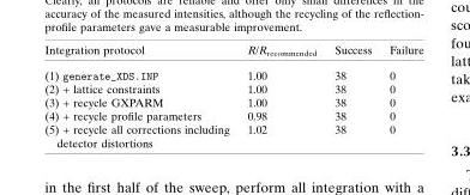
<table><thead><tr><td>Integration protocol</td><td>R/R<sub>recommended</sub></td><td>Success</td><td>Failure</td></tr></thead><tbody><tr><td>(1) generate_XDS.INP</td><td>1.00</td><td>38</td><td>0</td></tr><tr><td>(2) + lattice constraints</td><td>1.00</td><td>38</td><td>0</td></tr><tr><td>(3) + recycle GXPARM</td><td>1.00</td><td>38</td><td>0</td></tr><tr><td>(4) + recycle profile parameters</td><td>0.98</td><td>38</td><td>0</td></tr><tr><td>(5) + recycle all corrections including detector distortions</td><td>1.02</td><td>38</td><td>0</td></tr></tbody></table>